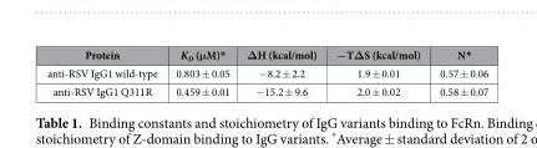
<table><thead><tr><td>Protein</td><td>K<sub>D</sub> (μM)*</td><td>ΔH (kcal/mol)</td><td>−TΔS (kcal/mol)</td><td>N*</td></tr></thead><tbody><tr><td>anti-RSV IgG1 wild-type</td><td>0.803 ± 0.05</td><td>−8.2 ± 2.2</td><td>1.9 ± 0.01</td><td>0.57 ± 0.06</td></tr><tr><td>anti-RSV IgG1 Q311R</td><td>0.459 ± 0.01</td><td>−15.2 ± 9.6</td><td>2.0 ± 0.02</td><td>0.58 ± 0.07</td></tr></tbody></table>